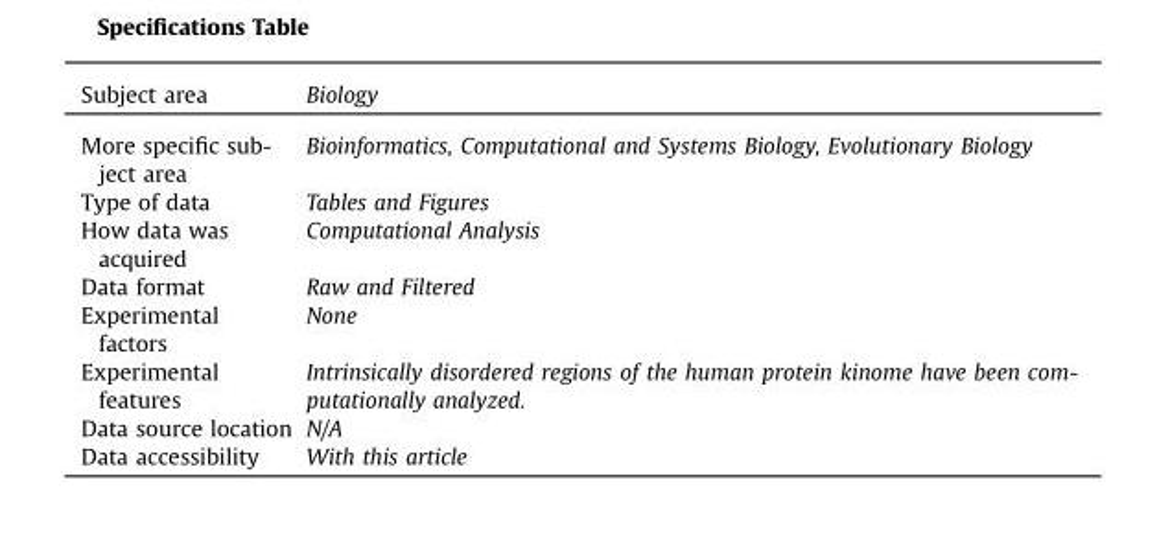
<table><thead><tr><td>Subject area</td><td>Biology</td></tr></thead><tbody><tr><td>More specific sub- ject area</td><td>Bioinformatics, Computational and Systems Biology, Evolutionary Biology</td></tr><tr><td>Type of data</td><td>Tables and Figures</td></tr><tr><td>How data was acquired</td><td>Computational Analysis</td></tr><tr><td>Data format</td><td>Raw and Filtered</td></tr><tr><td>Experimental factors</td><td>None</td></tr><tr><td>Experimental features</td><td>Intrinsically disordered regions of the human protein kinome have been com- putationally analyzed.</td></tr><tr><td>Data source location</td><td>N/A</td></tr><tr><td>Data accessibility</td><td>With this article</td></tr></tbody></table>